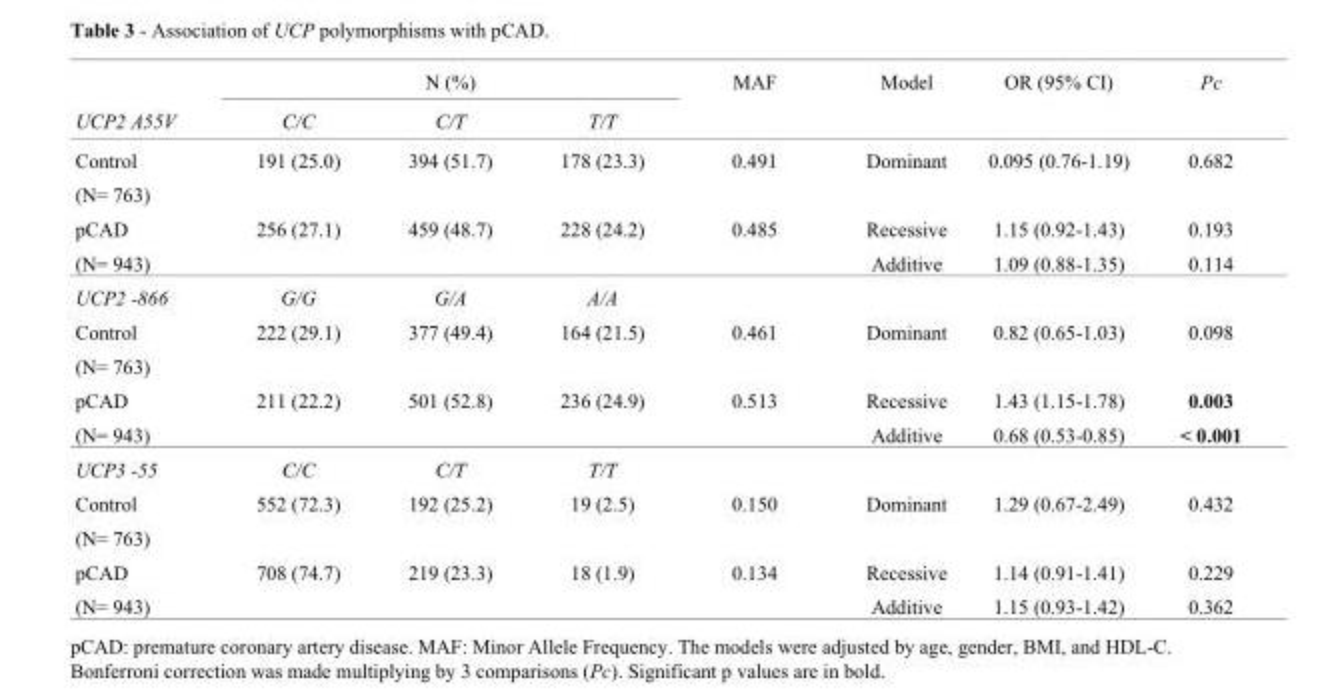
<table><thead><tr><td rowspan="2">UCP2 A55V</td><td colspan="3">N (%)</td><td rowspan="2">MAF</td><td rowspan="2">Model</td><td rowspan="2">OR (95% CI)</td><td rowspan="2">Pc</td></tr><tr><td>C/C</td><td>C/T</td><td>T/T</td></tr></thead><tbody><tr><td>Control</td><td>191 (25.0)</td><td>394 (51.7)</td><td>178 (23.3)</td><td>0.491</td><td>Dominant</td><td>0.095 (0.76-1.19)</td><td>0.682</td></tr><tr><td colspan="8">(N= 763)</td></tr><tr><td>pCAD</td><td>256 (27.1)</td><td>459 (48.7)</td><td>228 (24.2)</td><td>0.485</td><td>Recessive</td><td>1.15 (0.92-1.43)</td><td>0.193</td></tr><tr><td>(N= 943)</td><td></td><td></td><td></td><td></td><td>Additive</td><td>1.09 (0.88-1.35)</td><td>0.114</td></tr><tr><td>UCP2 -866</td><td>G/G</td><td>G/A</td><td>A/A</td><td></td><td></td><td></td><td></td></tr><tr><td>Control</td><td>222 (29.1)</td><td>377 (49.4)</td><td>164 (21.5)</td><td>0.461</td><td>Dominant</td><td>0.82 (0.65-1.03)</td><td>0.098</td></tr><tr><td colspan="8">(N= 763)</td></tr><tr><td>pCAD</td><td>211 (22.2)</td><td>501 (52.8)</td><td>236 (24.9)</td><td>0.513</td><td>Recessive</td><td>1.43 (1.15-1.78)</td><td>0.003</td></tr><tr><td>(N= 943)</td><td></td><td></td><td></td><td></td><td>Additive</td><td>0.68 (0.53-0.85)</td><td>&lt; 0.001</td></tr><tr><td>UCP3 -55</td><td>C/C</td><td>C/T</td><td>T/T</td><td></td><td></td><td></td><td></td></tr><tr><td>Control</td><td>552 (72.3)</td><td>192 (25.2)</td><td>19 (2.5)</td><td>0.150</td><td>Dominant</td><td>1.29 (0.67-2.49)</td><td>0.432</td></tr><tr><td colspan="8">(N= 763)</td></tr><tr><td>pCAD</td><td>708 (74.7)</td><td>219 (23.3)</td><td>18 (1.9)</td><td>0.134</td><td>Recessive</td><td>1.14 (0.91-1.41)</td><td>0.229</td></tr><tr><td>(N= 943)</td><td></td><td></td><td></td><td></td><td>Additive</td><td>1.15 (0.93-1.42)</td><td>0.362</td></tr></tbody></table>